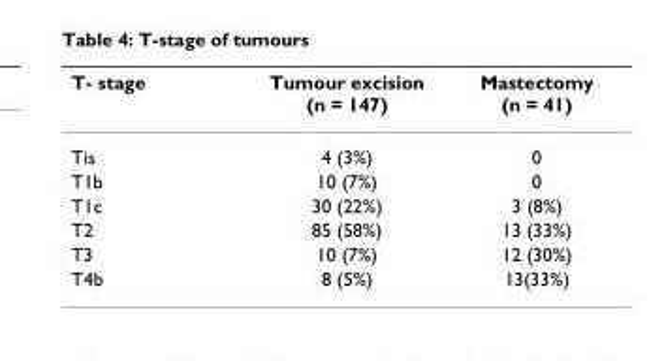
<table><thead><tr><td>T- stage</td><td>Tumour excision (n = 147)</td><td>Mastectomy (n = 41)</td></tr></thead><tbody><tr><td>Tis</td><td>4 (3%)</td><td>0</td></tr><tr><td>T1b</td><td>10 (7%)</td><td>0</td></tr><tr><td>T1c</td><td>30 (22%)</td><td>3 (8%)</td></tr><tr><td>T2</td><td>85 (58%)</td><td>13 (33%)</td></tr><tr><td>T3</td><td>10 (7%)</td><td>12 (30%)</td></tr><tr><td>T4b</td><td>8 (5%)</td><td>13(33%)</td></tr></tbody></table>